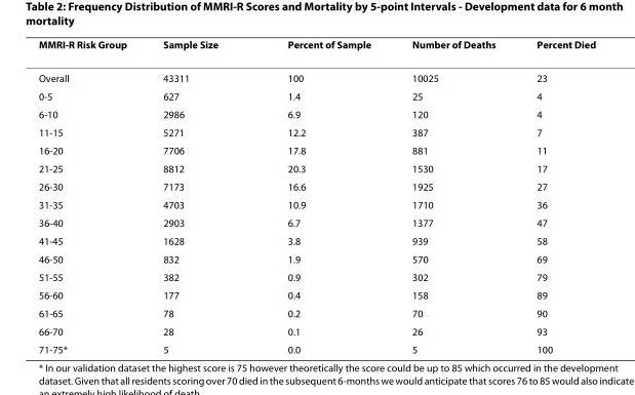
<table><thead><tr><td>MMRI-R Risk Group</td><td>Sample Size</td><td>Percent of Sample</td><td>Number of Deaths</td><td>Percent Died</td></tr></thead><tbody><tr><td>Overall</td><td>43311</td><td>100</td><td>10025</td><td>23</td></tr><tr><td>0-5</td><td>627</td><td>1.4</td><td>25</td><td>4</td></tr><tr><td>6-10</td><td>2986</td><td>6.9</td><td>120</td><td>4</td></tr><tr><td>11-15</td><td>5271</td><td>12.2</td><td>387</td><td>7</td></tr><tr><td>16-20</td><td>7706</td><td>17.8</td><td>881</td><td>11</td></tr><tr><td>21-25</td><td>8812</td><td>20.3</td><td>1530</td><td>17</td></tr><tr><td>26-30</td><td>7173</td><td>16.6</td><td>1925</td><td>27</td></tr><tr><td>31-35</td><td>4703</td><td>10.9</td><td>1710</td><td>36</td></tr><tr><td>36-40</td><td>2903</td><td>6.7</td><td>1377</td><td>47</td></tr><tr><td>41-45</td><td>1628</td><td>3.8</td><td>939</td><td>58</td></tr><tr><td>46-50</td><td>832</td><td>1.9</td><td>570</td><td>69</td></tr><tr><td>51-55</td><td>382</td><td>0.9</td><td>302</td><td>79</td></tr><tr><td>56-60</td><td>177</td><td>0.4</td><td>158</td><td>89</td></tr><tr><td>61-65</td><td>78</td><td>0.2</td><td>70</td><td>90</td></tr><tr><td>66-70</td><td>28</td><td>0.1</td><td>26</td><td>93</td></tr><tr><td>71-75*</td><td>5</td><td>0.0</td><td>5</td><td>100</td></tr></tbody></table>